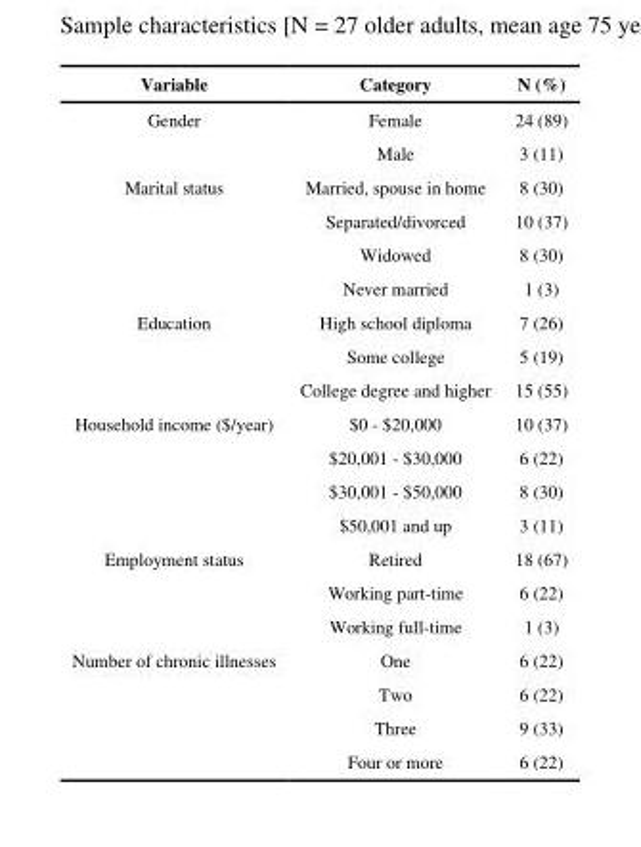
<table><thead><tr><td>Variable</td><td>Category</td><td>N (%)</td></tr></thead><tbody><tr><td rowspan="2">Gender</td><td>Female</td><td>24 (89)</td></tr><tr><td>Male</td><td>3 (11)</td></tr><tr><td rowspan="4">Marital status</td><td>Married, spouse in home</td><td>8 (30)</td></tr><tr><td>Separated/divorced</td><td>10 (37)</td></tr><tr><td>Widowed</td><td>8 (30)</td></tr><tr><td>Never married</td><td>1 (3)</td></tr><tr><td rowspan="3">Education</td><td>High school diploma</td><td>7 (26)</td></tr><tr><td>Some college</td><td>5 (19)</td></tr><tr><td>College degree and higher</td><td>15 (55)</td></tr><tr><td rowspan="4">Household income ($/year)</td><td>$0 - $20,000</td><td>10 (37)</td></tr><tr><td>$20,001 - $30,000</td><td>6 (22)</td></tr><tr><td>$30,001 - $50,000</td><td>8 (30)</td></tr><tr><td>$50,001 and up</td><td>3 (11)</td></tr><tr><td rowspan="3">Employment status</td><td>Retired</td><td>18 (67)</td></tr><tr><td>Working part-time</td><td>6 (22)</td></tr><tr><td>Working full-time</td><td>1 (3)</td></tr><tr><td rowspan="4">Number of chronic illnesses</td><td>One</td><td>6 (22)</td></tr><tr><td>Two</td><td>6 (22)</td></tr><tr><td>Three</td><td>9 (33)</td></tr><tr><td>Four or more</td><td>6 (22)</td></tr></tbody></table>